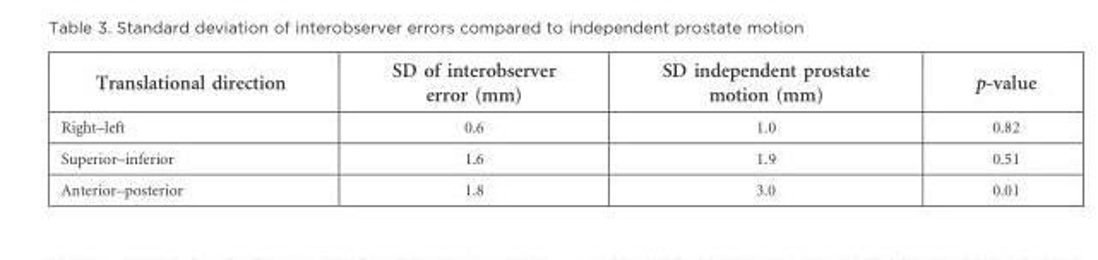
<table><thead><tr><td>Translational direction</td><td>SD of interobserver error (mm)</td><td>SD independent prostate motion (mm)</td><td>p-value</td></tr></thead><tbody><tr><td>Right–left</td><td>0.6</td><td>1.0</td><td>0.82</td></tr><tr><td>Superior–inferior</td><td>1.6</td><td>1.9</td><td>0.51</td></tr><tr><td>Anterior–posterior</td><td>1.8</td><td>3.0</td><td>0.01</td></tr></tbody></table>